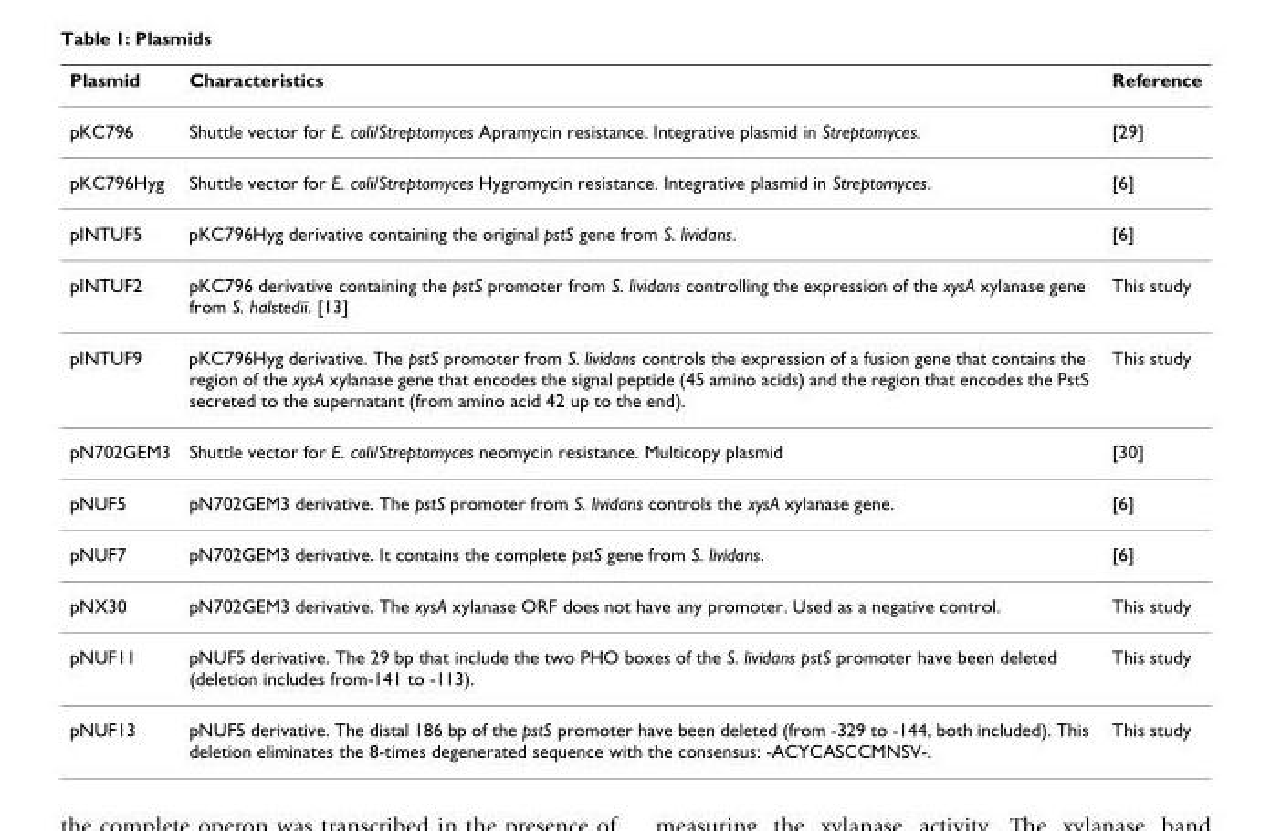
<table><thead><tr><td>Plasmid</td><td>Characteristics</td><td>Reference</td></tr></thead><tbody><tr><td>pKC796</td><td>Shuttle vector for E. coli/Streptomyces Apramycin resistance. Integrative plasmid in Streptomyces.</td><td>[29]</td></tr><tr><td>pKC796Hyg</td><td>Shuttle vector for E. coli/Streptomyces Hygromycin resistance. Integrative plasmid in Streptomyces.</td><td>[6]</td></tr><tr><td>pINTUF5</td><td>pKC796Hyg derivative containing the original pstS gene from S. lividans.</td><td>[6]</td></tr><tr><td>pINTUF2</td><td>pKC796 derivative containing the pstS promoter from S. lividans controlling the expression of the xysA xylanase gene from S. halstedii. [13]</td><td>This study</td></tr><tr><td>pINTUF9</td><td>pKC796Hyg derivative. The pstS promoter from S. lividans controls the expression of a fusion gene that contains the region of the xysA xylanase gene that encodes the signal peptide (45 amino acids) and the region that encodes the PstS secreted to the supernatant (from amino acid 42 up to the end).</td><td>This study</td></tr><tr><td>pN702GEM3</td><td>Shuttle vector for E. coli/Streptomyces neomycin resistance. Multicopy plasmid</td><td>[30]</td></tr><tr><td>pNUF5</td><td>pN702GEM3 derivative. The pstS promoter from S. lividans controls the xysA xylanase gene.</td><td>[6]</td></tr><tr><td>pNUF7</td><td>pN702GEM3 derivative. It contains the complete pstS gene from S. lividans.</td><td>[6]</td></tr><tr><td>pNX30</td><td>pN702GEM3 derivative. The xysA xylanase ORF does not have any promoter. Used as a negative control.</td><td>This study</td></tr><tr><td>pNUF11</td><td>pNUF5 derivative. The 29 bp that include the two PHO boxes of the S. lividans pstS promoter have been deleted (deletion includes from-141 to -113).</td><td>This study</td></tr><tr><td>pNUF13</td><td>pNUF5 derivative. The distal 186 bp of the pstS promoter have been deleted (from -329 to -144, both included). This deletion eliminates the 8-times degenerated sequence with the consensus: -ACYCASCCMNSV-.</td><td>This study</td></tr></tbody></table>